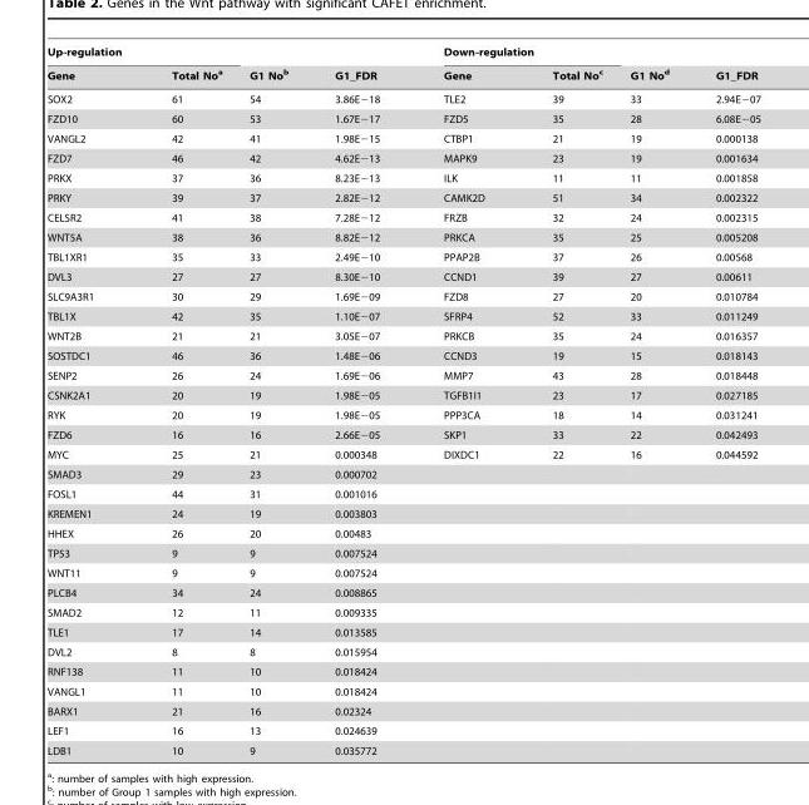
<table><thead><tr><td colspan="2">Up-regulation</td><td rowspan="2">G1 No<sup>b</sup></td><td rowspan="2">G1_FDR</td><td colspan="2">Down-regulation</td><td rowspan="2">G1 No<sup>d</sup></td><td rowspan="2">G1_FDR</td></tr><tr><td>Gene</td><td>Total No<sup>a</sup></td><td>Gene</td><td>Total No<sup>c</sup></td></tr></thead><tbody><tr><td>SOX2</td><td>61</td><td>54</td><td>3.86E−18</td><td>TLE2</td><td>39</td><td>33</td><td>2.94E−07</td></tr><tr><td>FZD10</td><td>60</td><td>53</td><td>1.67E−17</td><td>FZD5</td><td>35</td><td>28</td><td>6.08E−05</td></tr><tr><td>VANGL2</td><td>42</td><td>41</td><td>1.98E−15</td><td>CTBP1</td><td>21</td><td>19</td><td>0.000138</td></tr><tr><td>FZD7</td><td>46</td><td>42</td><td>4.62E−13</td><td>MAPK9</td><td>23</td><td>19</td><td>0.001634</td></tr><tr><td>PRKX</td><td>37</td><td>36</td><td>8.23E−13</td><td>ILK</td><td>11</td><td>11</td><td>0.001858</td></tr><tr><td>PRKY</td><td>39</td><td>37</td><td>2.82E−12</td><td>CAMK2D</td><td>51</td><td>34</td><td>0.002322</td></tr><tr><td>CELSR2</td><td>41</td><td>38</td><td>7.28E−12</td><td>FRZB</td><td>32</td><td>24</td><td>0.002315</td></tr><tr><td>WNT5A</td><td>38</td><td>36</td><td>8.82E−12</td><td>PRKCA</td><td>35</td><td>25</td><td>0.005208</td></tr><tr><td>TBL1XR1</td><td>35</td><td>33</td><td>2.49E−10</td><td>PPAP2B</td><td>37</td><td>26</td><td>0.00568</td></tr><tr><td>DVL3</td><td>27</td><td>27</td><td>8.30E−10</td><td>CCND1</td><td>39</td><td>27</td><td>0.00611</td></tr><tr><td>SLC9A3R1</td><td>30</td><td>29</td><td>1.69E−09</td><td>FZD8</td><td>27</td><td>20</td><td>0.010784</td></tr><tr><td>TBL1X</td><td>42</td><td>35</td><td>1.10E−07</td><td>SFRP4</td><td>52</td><td>33</td><td>0.011249</td></tr><tr><td>WNT2B</td><td>21</td><td>21</td><td>3.05E−07</td><td>PRKCB</td><td>35</td><td>24</td><td>0.016357</td></tr><tr><td>SOSTDC1</td><td>46</td><td>36</td><td>1.48E−06</td><td>CCND3</td><td>19</td><td>15</td><td>0.018143</td></tr><tr><td>SENP2</td><td>26</td><td>24</td><td>1.69E−06</td><td>MMP7</td><td>43</td><td>28</td><td>0.018448</td></tr><tr><td>CSNK2A1</td><td>20</td><td>19</td><td>1.98E−05</td><td>TGFB1I1</td><td>23</td><td>17</td><td>0.027185</td></tr><tr><td>RYK</td><td>20</td><td>19</td><td>1.98E−05</td><td>PPP3CA</td><td>18</td><td>14</td><td>0.031241</td></tr><tr><td>FZD6</td><td>16</td><td>16</td><td>2.66E−05</td><td>SKP1</td><td>33</td><td>22</td><td>0.042493</td></tr><tr><td>MYC</td><td>25</td><td>21</td><td>0.000348</td><td>DIXDC1</td><td>22</td><td>16</td><td>0.044592</td></tr><tr><td>SMAD3</td><td>29</td><td>23</td><td>0.000702</td><td></td><td></td><td></td><td></td></tr><tr><td>FOSL1</td><td>44</td><td>31</td><td>0.001016</td><td></td><td></td><td></td><td></td></tr><tr><td>KREMEN1</td><td>24</td><td>19</td><td>0.003803</td><td></td><td></td><td></td><td></td></tr><tr><td>HHEX</td><td>26</td><td>20</td><td>0.00483</td><td></td><td></td><td></td><td></td></tr><tr><td>TP53</td><td>9</td><td>9</td><td>0.007524</td><td></td><td></td><td></td><td></td></tr><tr><td>WNT11</td><td>9</td><td>9</td><td>0.007524</td><td></td><td></td><td></td><td></td></tr><tr><td>PLCB4</td><td>34</td><td>24</td><td>0.008865</td><td></td><td></td><td></td><td></td></tr><tr><td>SMAD2</td><td>12</td><td>11</td><td>0.009335</td><td></td><td></td><td></td><td></td></tr><tr><td>TLE1</td><td>17</td><td>14</td><td>0.013585</td><td></td><td></td><td></td><td></td></tr><tr><td>DVL2</td><td>8</td><td>8</td><td>0.015954</td><td></td><td></td><td></td><td></td></tr><tr><td>RNF138</td><td>11</td><td>10</td><td>0.018424</td><td></td><td></td><td></td><td></td></tr><tr><td>VANGL1</td><td>11</td><td>10</td><td>0.018424</td><td></td><td></td><td></td><td></td></tr><tr><td>BARX1</td><td>21</td><td>16</td><td>0.02324</td><td></td><td></td><td></td><td></td></tr><tr><td>LEF1</td><td>16</td><td>13</td><td>0.024639</td><td></td><td></td><td></td><td></td></tr><tr><td>LDB1</td><td>10</td><td>9</td><td>0.035772</td><td></td><td></td><td></td><td></td></tr></tbody></table>